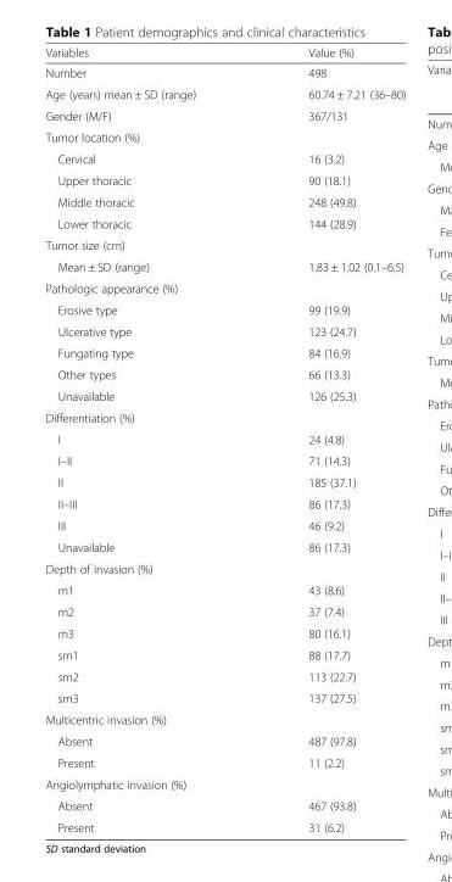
<table><thead><tr><td>Variables</td><td>Value (%)</td></tr></thead><tbody><tr><td>Number</td><td>498</td></tr><tr><td>Age (years) mean ± SD (range)</td><td>60.74 ± 7.21 (36–80)</td></tr><tr><td>Gender (M/F)</td><td>367/131</td></tr><tr><td colspan="2">Tumor location (%)</td></tr><tr><td>Cervical</td><td>16 (3.2)</td></tr><tr><td>Upper thoracic</td><td>90 (18.1)</td></tr><tr><td>Middle thoracic</td><td>248 (49.8)</td></tr><tr><td>Lower thoracic</td><td>144 (28.9)</td></tr><tr><td colspan="2">Tumor size (cm)</td></tr><tr><td>Mean ± SD (range)</td><td>1.83 ± 1.02 (0.1–6.5)</td></tr><tr><td colspan="2">Pathologic appearance (%)</td></tr><tr><td>Erosive type</td><td>99 (19.9)</td></tr><tr><td>Ulcerative type</td><td>123 (24.7)</td></tr><tr><td>Fungating type</td><td>84 (16.9)</td></tr><tr><td>Other types</td><td>66 (13.3)</td></tr><tr><td>Unavailable</td><td>126 (25.3)</td></tr><tr><td colspan="2">Differentiation (%)</td></tr><tr><td>I</td><td>24 (4.8)</td></tr><tr><td>I–II</td><td>71 (14.3)</td></tr><tr><td>II</td><td>185 (37.1)</td></tr><tr><td>II–III</td><td>86 (17.3)</td></tr><tr><td>III</td><td>46 (9.2)</td></tr><tr><td>Unavailable</td><td>86 (17.3)</td></tr><tr><td colspan="2">Depth of invasion (%)</td></tr><tr><td>m1</td><td>43 (8.6)</td></tr><tr><td>m2</td><td>37 (7.4)</td></tr><tr><td>m3</td><td>80 (16.1)</td></tr><tr><td>sm1</td><td>88 (17.7)</td></tr><tr><td>sm2</td><td>113 (22.7)</td></tr><tr><td>sm3</td><td>137 (27.5)</td></tr><tr><td colspan="2">Multicentric invasion (%)</td></tr><tr><td>Absent</td><td>487 (97.8)</td></tr><tr><td>Present</td><td>11 (2.2)</td></tr><tr><td colspan="2">Angiolymphatic invasion (%)</td></tr><tr><td>Absent</td><td>467 (93.8)</td></tr><tr><td>Present</td><td>31 (6.2)</td></tr></tbody></table>